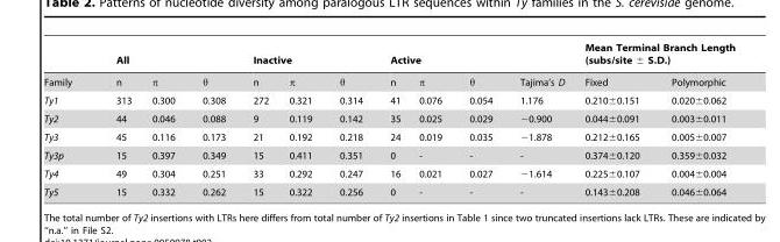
<table><thead><tr><td rowspan="2">Family</td><td colspan="3">All</td><td colspan="3">Inactive</td><td colspan="4">Active</td><td colspan="2">Mean Terminal Branch Length (subs/site ± S.D.)</td></tr><tr><td>n</td><td>π</td><td>θ</td><td>n</td><td>π</td><td>θ</td><td>n</td><td>π</td><td>θ</td><td>Tajima’s D</td><td>Fixed</td><td>Polymorphic</td></tr></thead><tbody><tr><td>Ty1</td><td>313</td><td>0.300</td><td>0.308</td><td>272</td><td>0.321</td><td>0.314</td><td>41</td><td>0.076</td><td>0.054</td><td>1.176</td><td>0.210±0.151</td><td>0.020±0.062</td></tr><tr><td>Ty2</td><td>44</td><td>0.046</td><td>0.088</td><td>9</td><td>0.119</td><td>0.142</td><td>35</td><td>0.025</td><td>0.029</td><td>−0.900</td><td>0.044±0.091</td><td>0.003±0.011</td></tr><tr><td>Ty3</td><td>45</td><td>0.116</td><td>0.173</td><td>21</td><td>0.192</td><td>0.218</td><td>24</td><td>0.019</td><td>0.035</td><td>−1.878</td><td>0.212±0.165</td><td>0.005±0.007</td></tr><tr><td>Ty3p</td><td>15</td><td>0.397</td><td>0.349</td><td>15</td><td>0.411</td><td>0.351</td><td>0</td><td>-</td><td>-</td><td>-</td><td>0.374±0.120</td><td>0.359±0.032</td></tr><tr><td>Ty4</td><td>49</td><td>0.304</td><td>0.251</td><td>33</td><td>0.292</td><td>0.247</td><td>16</td><td>0.021</td><td>0.027</td><td>−1.614</td><td>0.225±0.107</td><td>0.004±0.004</td></tr><tr><td>Ty5</td><td>15</td><td>0.332</td><td>0.262</td><td>15</td><td>0.322</td><td>0.256</td><td>0</td><td>-</td><td>-</td><td>-</td><td>0.143±0.208</td><td>0.046±0.064</td></tr></tbody></table>